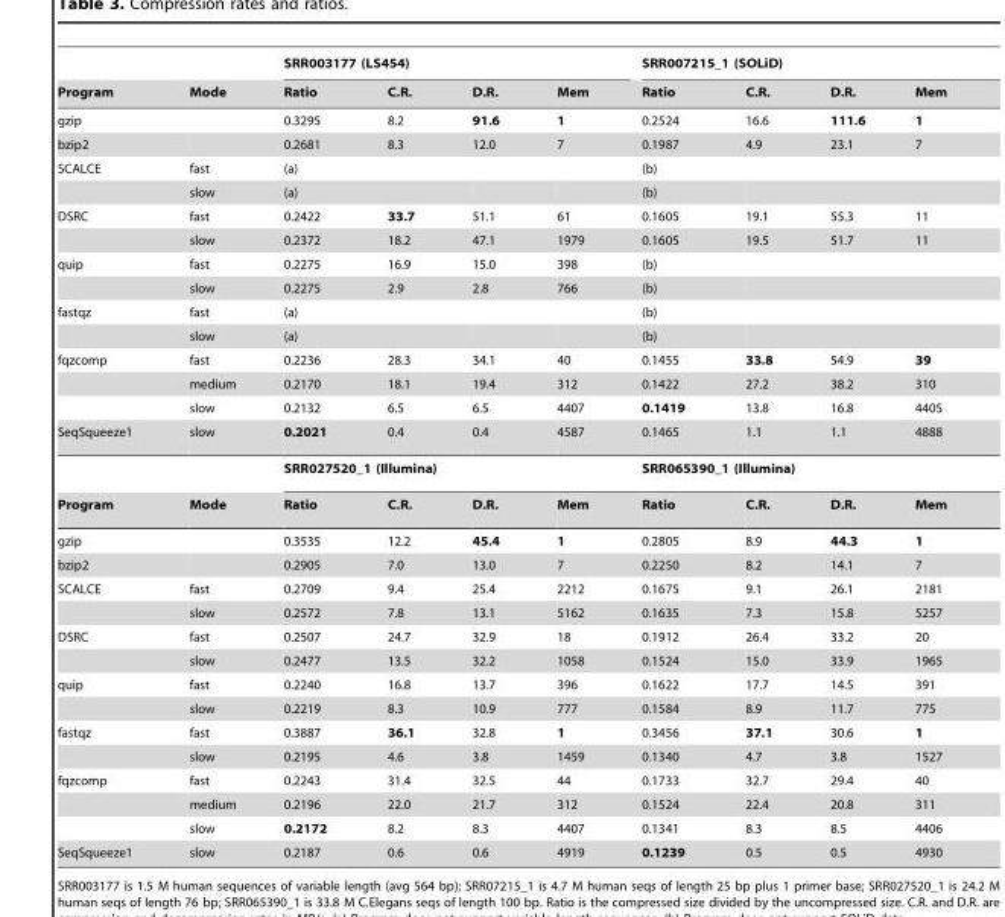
<table><thead><tr><td rowspan="2">Program</td><td rowspan="2">Mode</td><td colspan="4">SRR003177 (LS454)</td><td colspan="4">SRR007215_1 (SOLiD)</td></tr><tr><td>Ratio</td><td>C.R.</td><td>D.R.</td><td>Mem</td><td>Ratio</td><td>C.R.</td><td>D.R.</td><td>Mem</td></tr></thead><tbody><tr><td>gzip</td><td></td><td>0.3295</td><td>8.2</td><td>91.6</td><td>1</td><td>0.2524</td><td>16.6</td><td>111.6</td><td>1</td></tr><tr><td>bzip2</td><td></td><td>0.2681</td><td>8.3</td><td>12.0</td><td>7</td><td>0.1987</td><td>4.9</td><td>23.1</td><td>7</td></tr><tr><td rowspan="2">SCALCE</td><td>fast</td><td>(a)</td><td></td><td></td><td></td><td>(b)</td><td></td><td></td><td></td></tr><tr><td>slow</td><td>(a)</td><td></td><td></td><td></td><td>(b)</td><td></td><td></td><td></td></tr><tr><td rowspan="2">DSRC</td><td>fast</td><td>0.2422</td><td>33.7</td><td>51.1</td><td>61</td><td>0.1605</td><td>19.1</td><td>55.3</td><td>11</td></tr><tr><td>slow</td><td>0.2372</td><td>18.2</td><td>47.1</td><td>1979</td><td>0.1605</td><td>19.5</td><td>51.7</td><td>11</td></tr><tr><td rowspan="2">quip</td><td>fast</td><td>0.2275</td><td>16.9</td><td>15.0</td><td>398</td><td>(b)</td><td></td><td></td><td></td></tr><tr><td>slow</td><td>0.2275</td><td>2.9</td><td>2.8</td><td>766</td><td>(b)</td><td></td><td></td><td></td></tr><tr><td rowspan="2">fastqz</td><td>fast</td><td>(a)</td><td></td><td></td><td></td><td>(b)</td><td></td><td></td><td></td></tr><tr><td>slow</td><td>(a)</td><td></td><td></td><td></td><td>(b)</td><td></td><td></td><td></td></tr><tr><td rowspan="3">fqzcomp</td><td>fast</td><td>0.2236</td><td>28.3</td><td>34.1</td><td>40</td><td>0.1455</td><td>33.8</td><td>54.9</td><td>39</td></tr><tr><td>medium</td><td>0.2170</td><td>18.1</td><td>19.4</td><td>312</td><td>0.1422</td><td>27.2</td><td>38.2</td><td>310</td></tr><tr><td>slow</td><td>0.2132</td><td>6.5</td><td>6.5</td><td>4407</td><td>0.1419</td><td>13.8</td><td>16.8</td><td>4405</td></tr><tr><td rowspan="2">SeqSqueeze1</td><td>slow</td><td>0.2021</td><td>0.4</td><td>0.4</td><td>4587</td><td>0.1465</td><td>1.1</td><td>1.1</td><td>4888</td></tr><tr><td></td><td colspan="4">SRR027520_1 (Illumina)</td><td colspan="4">SRR065390_1 (Illumina)</td></tr><tr><td>Program</td><td>Mode</td><td>Ratio</td><td>C.R.</td><td>D.R.</td><td>Mem</td><td>Ratio</td><td>C.R.</td><td>D.R.</td><td>Mem</td></tr><tr><td>gzip</td><td></td><td>0.3535</td><td>12.2</td><td>45.4</td><td>1</td><td>0.2805</td><td>8.9</td><td>44.3</td><td>1</td></tr><tr><td>bzip2</td><td></td><td>0.2905</td><td>7.0</td><td>13.0</td><td>7</td><td>0.2250</td><td>8.2</td><td>14.1</td><td>7</td></tr><tr><td rowspan="2">SCALCE</td><td>fast</td><td>0.2709</td><td>9.4</td><td>25.4</td><td>2212</td><td>0.1675</td><td>9.1</td><td>26.1</td><td>2181</td></tr><tr><td>slow</td><td>0.2572</td><td>7.8</td><td>13.1</td><td>5162</td><td>0.1635</td><td>7.3</td><td>15.8</td><td>5257</td></tr><tr><td rowspan="2">DSRC</td><td>fast</td><td>0.2507</td><td>24.7</td><td>32.9</td><td>18</td><td>0.1912</td><td>26.4</td><td>33.2</td><td>20</td></tr><tr><td>slow</td><td>0.2477</td><td>13.5</td><td>32.2</td><td>1058</td><td>0.1524</td><td>15.0</td><td>33.9</td><td>1965</td></tr><tr><td rowspan="2">quip</td><td>fast</td><td>0.2240</td><td>16.8</td><td>13.7</td><td>396</td><td>0.1622</td><td>17.7</td><td>14.5</td><td>391</td></tr><tr><td>slow</td><td>0.2219</td><td>8.3</td><td>10.9</td><td>777</td><td>0.1584</td><td>8.9</td><td>11.7</td><td>775</td></tr><tr><td rowspan="2">fastqz</td><td>fast</td><td>0.3887</td><td>36.1</td><td>32.8</td><td>1</td><td>0.3456</td><td>37.1</td><td>30.6</td><td>1</td></tr><tr><td>slow</td><td>0.2195</td><td>4.6</td><td>3.8</td><td>1459</td><td>0.1340</td><td>4.7</td><td>3.8</td><td>1527</td></tr><tr><td rowspan="3">fqzcomp</td><td>fast</td><td>0.2243</td><td>31.4</td><td>32.5</td><td>44</td><td>0.1733</td><td>32.7</td><td>29.4</td><td>40</td></tr><tr><td>medium</td><td>0.2196</td><td>22.0</td><td>21.7</td><td>312</td><td>0.1524</td><td>22.4</td><td>20.8</td><td>311</td></tr><tr><td>slow</td><td>0.2172</td><td>8.2</td><td>8.3</td><td>4407</td><td>0.1341</td><td>8.3</td><td>8.5</td><td>4406</td></tr><tr><td>SeqSqueeze1</td><td>slow</td><td>0.2187</td><td>0.6</td><td>0.6</td><td>4919</td><td>0.1239</td><td>0.5</td><td>0.5</td><td>4930</td></tr></tbody></table>